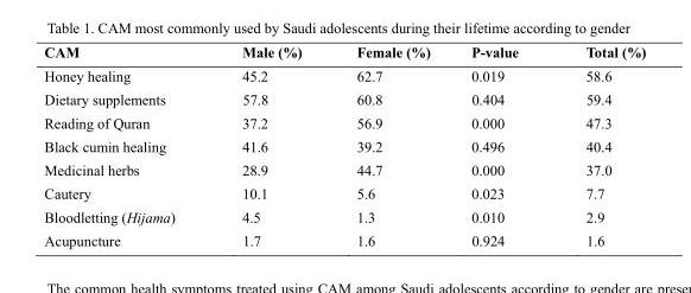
<table><thead><tr><td>CAM</td><td>Male (%)</td><td>Female (%)</td><td>P-value</td><td>Total (%)</td></tr></thead><tbody><tr><td>Honey healing</td><td>45.2</td><td>62.7</td><td>0.019</td><td>58.6</td></tr><tr><td>Dietary supplements</td><td>57.8</td><td>60.8</td><td>0.404</td><td>59.4</td></tr><tr><td>Reading of Quran</td><td>37.2</td><td>56.9</td><td>0.000</td><td>47.3</td></tr><tr><td>Black cumin healing</td><td>41.6</td><td>39.2</td><td>0.496</td><td>40.4</td></tr><tr><td>Medicinal herbs</td><td>28.9</td><td>44.7</td><td>0.000</td><td>37.0</td></tr><tr><td>Cautery</td><td>10.1</td><td>5.6</td><td>0.023</td><td>7.7</td></tr><tr><td>Bloodletting (Hijama)</td><td>4.5</td><td>1.3</td><td>0.010</td><td>2.9</td></tr><tr><td>Acupuncture</td><td>1.7</td><td>1.6</td><td>0.924</td><td>1.6</td></tr></tbody></table>